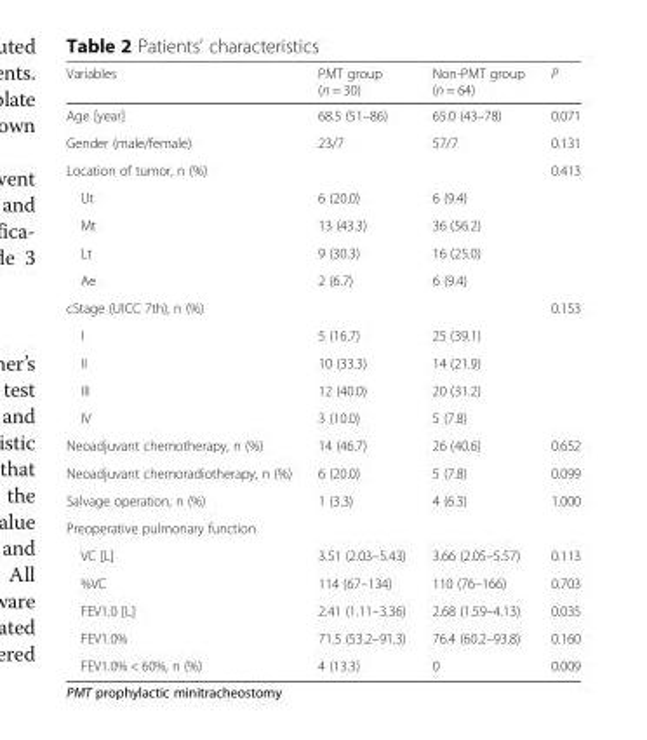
<table><thead><tr><td>Variables</td><td>PMT group (n = 30)</td><td>Non-PMT group (n = 64)</td><td>P</td></tr></thead><tbody><tr><td>Age [year]</td><td>68.5 (51–86)</td><td>65.0 (43–78)</td><td>0.071</td></tr><tr><td>Gender (male/female)</td><td>23/7</td><td>57/7</td><td>0.131</td></tr><tr><td>Location of tumor, n (%)</td><td></td><td></td><td>0.413</td></tr><tr><td>Ut</td><td>6 (20.0)</td><td>6 (9.4)</td><td></td></tr><tr><td>Mt</td><td>13 (43.3)</td><td>36 (56.2)</td><td></td></tr><tr><td>Lt</td><td>9 (30.3)</td><td>16 (25.0)</td><td></td></tr><tr><td>Ae</td><td>2 (6.7)</td><td>6 (9.4)</td><td></td></tr><tr><td>cStage (UICC 7th), n (%)</td><td></td><td></td><td>0.153</td></tr><tr><td>I</td><td>5 (16.7)</td><td>25 (39.1)</td><td></td></tr><tr><td>II</td><td>10 (33.3)</td><td>14 (21.9)</td><td></td></tr><tr><td>III</td><td>12 (40.0)</td><td>20 (31.2)</td><td></td></tr><tr><td>IV</td><td>3 (10.0)</td><td>5 (7.8)</td><td></td></tr><tr><td>Neoadjuvant chemotherapy, n (%)</td><td>14 (46.7)</td><td>26 (40.6)</td><td>0.652</td></tr><tr><td>Neoadjuvant chemoradiotherapy, n (%)</td><td>6 (20.0)</td><td>5 (7.8)</td><td>0.099</td></tr><tr><td>Salvage operation, n (%)</td><td>1 (3.3)</td><td>4 (6.3)</td><td>1.000</td></tr><tr><td colspan="4">Preoperative pulmonary function</td></tr><tr><td>VC [L]</td><td>3.51 (2.03–5.43)</td><td>3.66 (2.05–5.57)</td><td>0.113</td></tr><tr><td>%VC</td><td>114 (67–134)</td><td>110 (76–166)</td><td>0.703</td></tr><tr><td>FEV1.0 [L]</td><td>2.41 (1.11–3.36)</td><td>2.68 (1.59–4.13)</td><td>0.035</td></tr><tr><td>FEV1.0%</td><td>71.5 (53.2–91.3)</td><td>76.4 (60.2–93.8)</td><td>0.160</td></tr><tr><td>FEV1.0% &lt; 60%, n (%)</td><td>4 (13.3)</td><td>0</td><td>0.009</td></tr></tbody></table>